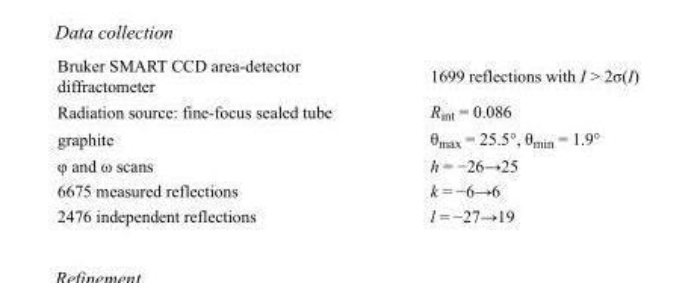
<table><tbody><tr><td>Bruker SMART CCD area-detector diffractometer</td><td>1699 reflections with I &gt; 2σ(I)</td></tr><tr><td>Radiation source: fine-focus sealed tube</td><td>R<sub>int</sub> = 0.086</td></tr><tr><td>graphite</td><td>θ<sub>max</sub> = 25.5°, θ<sub>min</sub> = 1.9°</td></tr><tr><td>φ and ω scans</td><td>h = −26→25</td></tr><tr><td>6675 measured reflections</td><td>k = −6→6</td></tr><tr><td>2476 independent reflections</td><td>l = −27→19</td></tr></tbody></table>